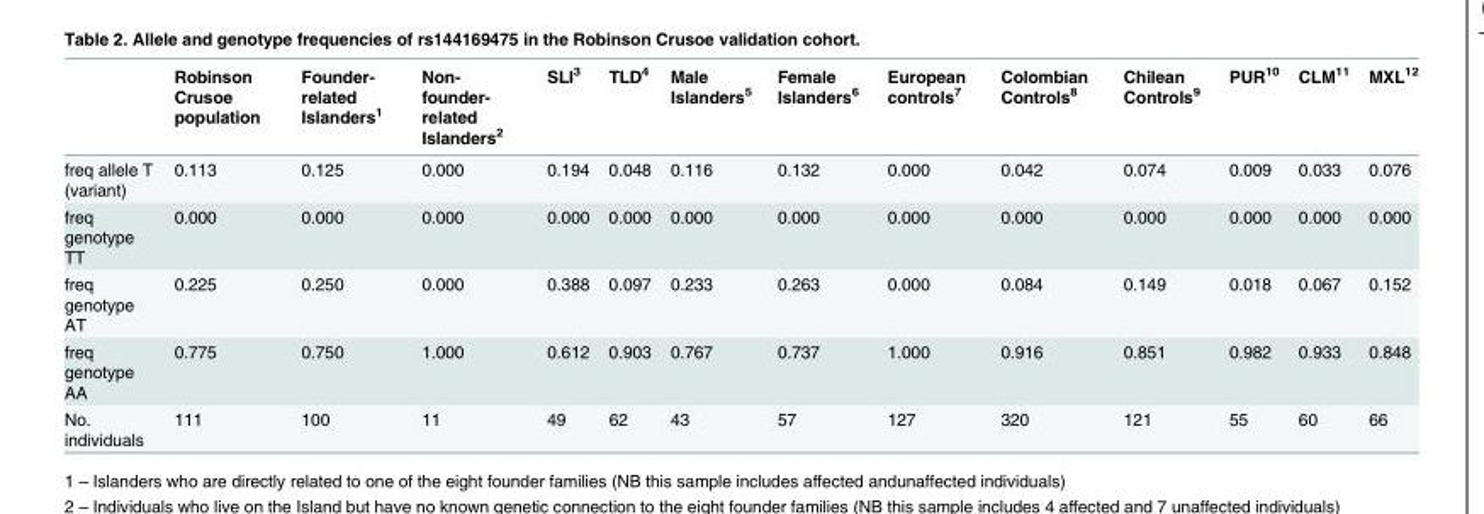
<table><thead><tr><td></td><td>Robinson Crusoe population</td><td>Founder- related Islanders<sup>1</sup></td><td>Non- founder- related Islanders<sup>2</sup></td><td>SLI<sup>3</sup></td><td>TLD<sup>4</sup></td><td>Male Islanders<sup>5</sup></td><td>Female Islanders<sup>6</sup></td><td>European controls<sup>7</sup></td><td>Colombian Controls<sup>8</sup></td><td>Chilean Controls<sup>9</sup></td><td>PUR<sup>10</sup></td><td>CLM<sup>11</sup></td><td>MXL<sup>12</sup></td></tr></thead><tbody><tr><td>freq allele T (variant)</td><td>0.113</td><td>0.125</td><td>0.000</td><td>0.194</td><td>0.048</td><td>0.116</td><td>0.132</td><td>0.000</td><td>0.042</td><td>0.074</td><td>0.009</td><td>0.033</td><td>0.076</td></tr><tr><td>freq genotype TT</td><td>0.000</td><td>0.000</td><td>0.000</td><td>0.000</td><td>0.000</td><td>0.000</td><td>0.000</td><td>0.000</td><td>0.000</td><td>0.000</td><td>0.000</td><td>0.000</td><td>0.000</td></tr><tr><td>freq genotype AT</td><td>0.225</td><td>0.250</td><td>0.000</td><td>0.388</td><td>0.097</td><td>0.233</td><td>0.263</td><td>0.000</td><td>0.084</td><td>0.149</td><td>0.018</td><td>0.067</td><td>0.152</td></tr><tr><td>freq genotype AA</td><td>0.775</td><td>0.750</td><td>1.000</td><td>0.612</td><td>0.903</td><td>0.767</td><td>0.737</td><td>1.000</td><td>0.916</td><td>0.851</td><td>0.982</td><td>0.933</td><td>0.848</td></tr><tr><td>No. individuals</td><td>111</td><td>100</td><td>11</td><td>49</td><td>62</td><td>43</td><td>57</td><td>127</td><td>320</td><td>121</td><td>55</td><td>60</td><td>66</td></tr></tbody></table>